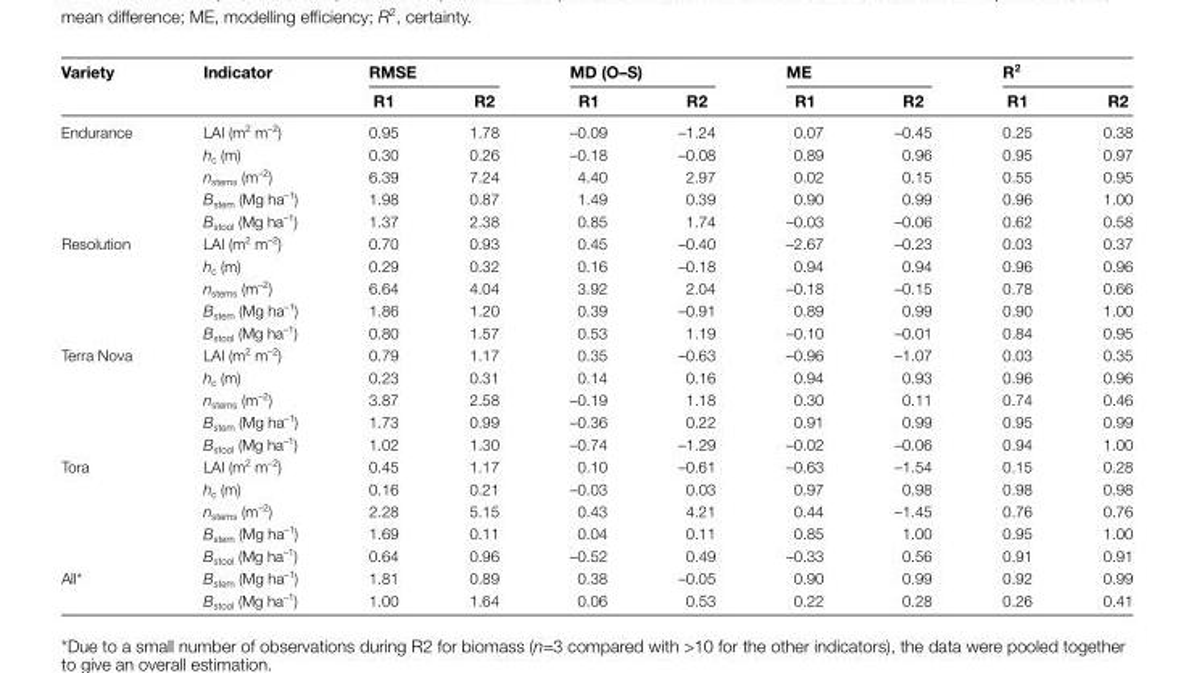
<table><thead><tr><td rowspan="2">Variety</td><td rowspan="2">Indicator</td><td colspan="2">RMSE</td><td colspan="2">MD (O–S)</td><td colspan="2">ME</td><td colspan="2">R<sup>2</sup></td></tr><tr><td>R1</td><td>R2</td><td>R1</td><td>R2</td><td>R1</td><td>R2</td><td>R1</td><td>R2</td></tr></thead><tbody><tr><td rowspan="5">Endurance</td><td>LAI (m<sup>2</sup> m<sup>–2</sup>)</td><td>0.95</td><td>1.78</td><td>–0.09</td><td>–1.24</td><td>0.07</td><td>–0.45</td><td>0.25</td><td>0.38</td></tr><tr><td>h<sub>c</sub> (m)</td><td>0.30</td><td>0.26</td><td>–0.18</td><td>–0.08</td><td>0.89</td><td>0.96</td><td>0.95</td><td>0.97</td></tr><tr><td>n<sub>stems</sub> (m<sup>–2</sup>)</td><td>6.39</td><td>7.24</td><td>4.40</td><td>2.97</td><td>0.02</td><td>0.15</td><td>0.55</td><td>0.95</td></tr><tr><td>B<sub>stem</sub> (Mg ha<sup>–1</sup>)</td><td>1.98</td><td>0.87</td><td>1.49</td><td>0.39</td><td>0.90</td><td>0.99</td><td>0.96</td><td>1.00</td></tr><tr><td>B<sub>stool</sub> (Mg ha<sup>–1</sup>)</td><td>1.37</td><td>2.38</td><td>0.85</td><td>1.74</td><td>–0.03</td><td>–0.06</td><td>0.62</td><td>0.58</td></tr><tr><td rowspan="5">Resolution</td><td>LAI (m<sup>2</sup> m<sup>–2</sup>)</td><td>0.70</td><td>0.93</td><td>0.45</td><td>–0.40</td><td>–2.67</td><td>–0.23</td><td>0.03</td><td>0.37</td></tr><tr><td>h<sub>c</sub> (m)</td><td>0.29</td><td>0.32</td><td>0.16</td><td>–0.18</td><td>0.94</td><td>0.94</td><td>0.96</td><td>0.96</td></tr><tr><td>n<sub>stems</sub> (m<sup>–2</sup>)</td><td>6.64</td><td>4.04</td><td>3.92</td><td>2.04</td><td>–0.18</td><td>–0.15</td><td>0.78</td><td>0.66</td></tr><tr><td>B<sub>stem</sub> (Mg ha<sup>–1</sup>)</td><td>1.86</td><td>1.20</td><td>0.39</td><td>–0.91</td><td>0.89</td><td>0.99</td><td>0.90</td><td>1.00</td></tr><tr><td>B<sub>stool</sub> (Mg ha<sup>–1</sup>)</td><td>0.80</td><td>1.57</td><td>0.53</td><td>1.19</td><td>–0.10</td><td>–0.01</td><td>0.84</td><td>0.95</td></tr><tr><td rowspan="5">Terra Nova</td><td>LAI (m<sup>2</sup> m<sup>–2</sup>)</td><td>0.79</td><td>1.17</td><td>0.35</td><td>–0.63</td><td>–0.96</td><td>–1.07</td><td>0.03</td><td>0.35</td></tr><tr><td>h<sub>c</sub> (m)</td><td>0.23</td><td>0.31</td><td>0.14</td><td>0.16</td><td>0.94</td><td>0.93</td><td>0.96</td><td>0.96</td></tr><tr><td>n<sub>stems</sub> (m<sup>–2</sup>)</td><td>3.87</td><td>2.58</td><td>–0.19</td><td>1.18</td><td>0.30</td><td>0.11</td><td>0.74</td><td>0.46</td></tr><tr><td>B<sub>stem</sub> (Mg ha<sup>–1</sup>)</td><td>1.73</td><td>0.99</td><td>–0.36</td><td>0.22</td><td>0.91</td><td>0.99</td><td>0.95</td><td>0.99</td></tr><tr><td>B<sub>stool</sub> (Mg ha<sup>–1</sup>)</td><td>1.02</td><td>1.30</td><td>–0.74</td><td>–1.29</td><td>–0.02</td><td>–0.06</td><td>0.94</td><td>1.00</td></tr><tr><td rowspan="5">Tora</td><td>LAI (m<sup>2</sup> m<sup>–2</sup>)</td><td>0.45</td><td>1.17</td><td>0.10</td><td>–0.61</td><td>–0.63</td><td>–1.54</td><td>0.15</td><td>0.28</td></tr><tr><td>h<sub>c</sub> (m)</td><td>0.16</td><td>0.21</td><td>–0.03</td><td>0.03</td><td>0.97</td><td>0.98</td><td>0.98</td><td>0.98</td></tr><tr><td>n<sub>stems</sub> (m<sup>–2</sup>)</td><td>2.28</td><td>5.15</td><td>0.43</td><td>4.21</td><td>0.44</td><td>–1.45</td><td>0.76</td><td>0.76</td></tr><tr><td>B<sub>stem</sub> (Mg ha<sup>–1</sup>)</td><td>1.69</td><td>0.11</td><td>0.04</td><td>0.11</td><td>0.85</td><td>1.00</td><td>0.95</td><td>1.00</td></tr><tr><td>B<sub>stool</sub> (Mg ha<sup>–1</sup>)</td><td>0.64</td><td>0.96</td><td>–0.52</td><td>0.49</td><td>–0.33</td><td>0.56</td><td>0.91</td><td>0.91</td></tr><tr><td rowspan="2">All*</td><td>B<sub>stem</sub> (Mg ha<sup>–1</sup>)</td><td>1.81</td><td>0.89</td><td>0.38</td><td>–0.05</td><td>0.90</td><td>0.99</td><td>0.92</td><td>0.99</td></tr><tr><td>B<sub>stool</sub> (Mg ha<sup>–1</sup>)</td><td>1.00</td><td>1.64</td><td>0.06</td><td>0.53</td><td>0.22</td><td>0.28</td><td>0.26</td><td>0.41</td></tr></tbody></table>